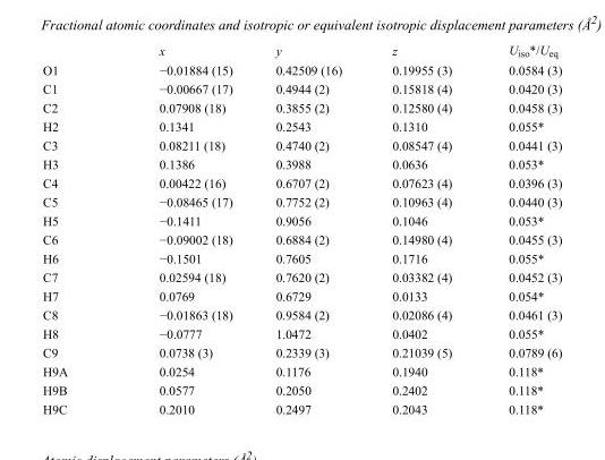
<table><thead><tr><td></td><td>x</td><td>y</td><td>z</td><td>U<sub>iso</sub>*/U<sub>eq</sub></td></tr></thead><tbody><tr><td>O1</td><td>−0.01884 (15)</td><td>0.42509 (16)</td><td>0.19955 (3)</td><td>0.0584 (3)</td></tr><tr><td>C1</td><td>−0.00667 (17)</td><td>0.4944 (2)</td><td>0.15818 (4)</td><td>0.0420 (3)</td></tr><tr><td>C2</td><td>0.07908 (18)</td><td>0.3855 (2)</td><td>0.12580 (4)</td><td>0.0458 (3)</td></tr><tr><td>H2</td><td>0.1341</td><td>0.2543</td><td>0.1310</td><td>0.055*</td></tr><tr><td>C3</td><td>0.08211 (18)</td><td>0.4740 (2)</td><td>0.08547 (4)</td><td>0.0441 (3)</td></tr><tr><td>H3</td><td>0.1386</td><td>0.3988</td><td>0.0636</td><td>0.053*</td></tr><tr><td>C4</td><td>0.00422 (16)</td><td>0.6707 (2)</td><td>0.07623 (4)</td><td>0.0396 (3)</td></tr><tr><td>C5</td><td>−0.08465 (17)</td><td>0.7752 (2)</td><td>0.10963 (4)</td><td>0.0440 (3)</td></tr><tr><td>H5</td><td>−0.1411</td><td>0.9056</td><td>0.1046</td><td>0.053*</td></tr><tr><td>C6</td><td>−0.09002 (18)</td><td>0.6884 (2)</td><td>0.14980 (4)</td><td>0.0455 (3)</td></tr><tr><td>H6</td><td>−0.1501</td><td>0.7605</td><td>0.1716</td><td>0.055*</td></tr><tr><td>C7</td><td>0.02594 (18)</td><td>0.7620 (2)</td><td>0.03382 (4)</td><td>0.0452 (3)</td></tr><tr><td>H7</td><td>0.0769</td><td>0.6729</td><td>0.0133</td><td>0.054*</td></tr><tr><td>C8</td><td>−0.01863 (18)</td><td>0.9584 (2)</td><td>0.02086 (4)</td><td>0.0461 (3)</td></tr><tr><td>H8</td><td>−0.0777</td><td>1.0472</td><td>0.0402</td><td>0.055*</td></tr><tr><td>C9</td><td>0.0738 (3)</td><td>0.2339 (3)</td><td>0.21039 (5)</td><td>0.0789 (6)</td></tr><tr><td>H9A</td><td>0.0254</td><td>0.1176</td><td>0.1940</td><td>0.118*</td></tr><tr><td>H9B</td><td>0.0577</td><td>0.2050</td><td>0.2402</td><td>0.118*</td></tr><tr><td>H9C</td><td>0.2010</td><td>0.2497</td><td>0.2043</td><td>0.118*</td></tr></tbody></table>